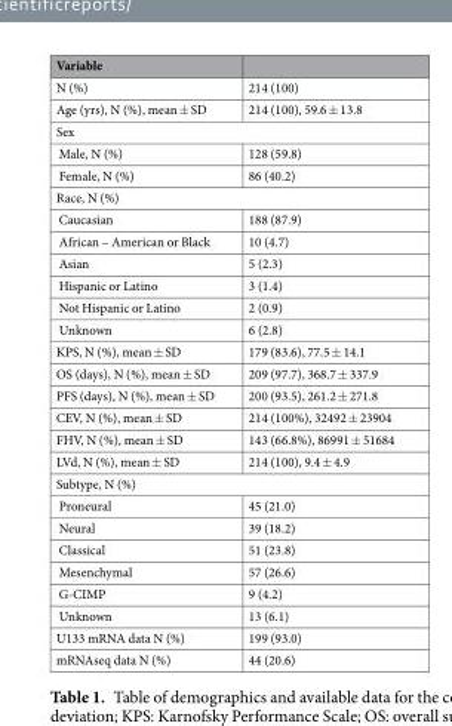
<table><thead><tr><td>Variable</td><td></td></tr></thead><tbody><tr><td>N (%)</td><td>214 (100)</td></tr><tr><td>Age (yrs), N (%), mean ± SD</td><td>214 (100), 59.6 ± 13.8</td></tr><tr><td colspan="2">Sex</td></tr><tr><td>Male, N (%)</td><td>128 (59.8)</td></tr><tr><td>Female, N (%)</td><td>86 (40.2)</td></tr><tr><td colspan="2">Race, N (%)</td></tr><tr><td>Caucasian</td><td>188 (87.9)</td></tr><tr><td>African – American or Black</td><td>10 (4.7)</td></tr><tr><td>Asian</td><td>5 (2.3)</td></tr><tr><td>Hispanic or Latino</td><td>3 (1.4)</td></tr><tr><td>Not Hispanic or Latino</td><td>2 (0.9)</td></tr><tr><td>Unknown</td><td>6 (2.8)</td></tr><tr><td>KPS, N (%), mean ± SD</td><td>179 (83.6), 77.5 ± 14.1</td></tr><tr><td>OS (days), N (%), mean ± SD</td><td>209 (97.7), 368.7 ± 337.9</td></tr><tr><td>PFS (days), N (%), mean ± SD</td><td>200 (93.5), 261.2 ± 271.8</td></tr><tr><td>CEV, N (%), mean ± SD</td><td>214 (100%), 32492 ± 23904</td></tr><tr><td>FHV, N (%), mean ± SD</td><td>143 (66.8%), 86991 ± 51684</td></tr><tr><td>LVd, N (%), mean ± SD</td><td>214 (100), 9.4 ± 4.9</td></tr><tr><td colspan="2">Subtype, N (%)</td></tr><tr><td>Proneural</td><td>45 (21.0)</td></tr><tr><td>Neural</td><td>39 (18.2)</td></tr><tr><td>Classical</td><td>51 (23.8)</td></tr><tr><td>Mesenchymal</td><td>57 (26.6)</td></tr><tr><td>G-CIMP</td><td>9 (4.2)</td></tr><tr><td>Unknown</td><td>13 (6.1)</td></tr><tr><td>U133 mRNA data N (%)</td><td>199 (93.0)</td></tr><tr><td>mRNAseq data N (%)</td><td>44 (20.6)</td></tr></tbody></table>